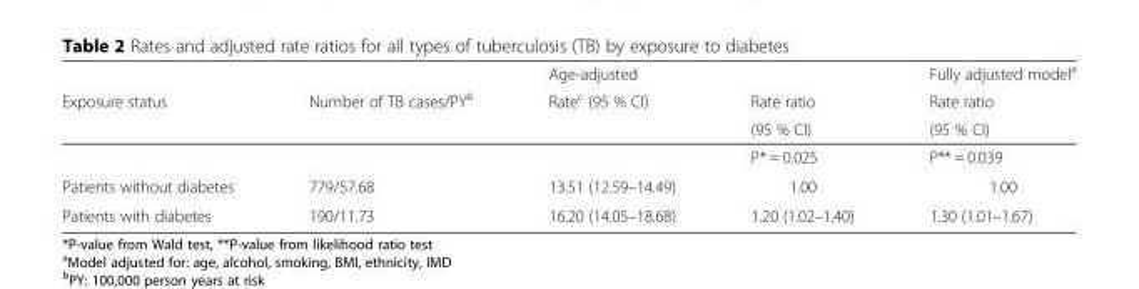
<table><thead><tr><td rowspan="3">Exposure status</td><td rowspan="3">Number of TB cases/PY<sup>b</sup></td><td rowspan="3">Age-adjusted Rate<sup>c</sup> (95 % CI)</td><td rowspan="3">Rate ratio (95 % CI)</td><td rowspan="3">Fully adjusted model<sup>a</sup> Rate ratio (95 % CI)</td></tr><tr></tr><tr></tr></thead><tbody><tr><td></td><td></td><td></td><td>P* = 0.025</td><td>P** = 0.039</td></tr><tr><td>Patients without diabetes</td><td>779/57.68</td><td>13.51 (12.59–14.49)</td><td>1.00</td><td>1.00</td></tr><tr><td>Patients with diabetes</td><td>190/11.73</td><td>16.20 (14.05–18.68)</td><td>1.20 (1.02–1.40)</td><td>1.30 (1.01–1.67)</td></tr></tbody></table>